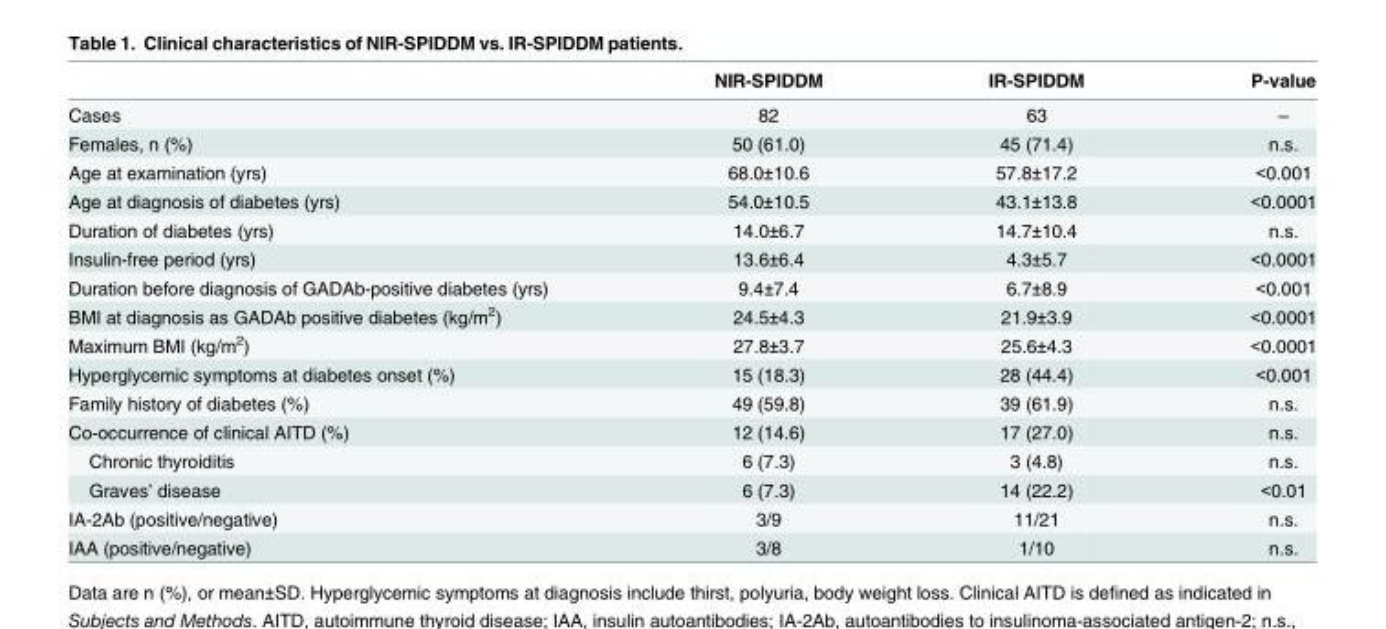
<table><thead><tr><td></td><td>NIR-SPIDDM</td><td>IR-SPIDDM</td><td>P-value</td></tr></thead><tbody><tr><td>Cases</td><td>82</td><td>63</td><td>–</td></tr><tr><td>Females, n (%)</td><td>50 (61.0)</td><td>45 (71.4)</td><td>n.s.</td></tr><tr><td>Age at examination (yrs)</td><td>68.0±10.6</td><td>57.8±17.2</td><td>&lt;0.001</td></tr><tr><td>Age at diagnosis of diabetes (yrs)</td><td>54.0±10.5</td><td>43.1±13.8</td><td>&lt;0.0001</td></tr><tr><td>Duration of diabetes (yrs)</td><td>14.0±6.7</td><td>14.7±10.4</td><td>n.s.</td></tr><tr><td>Insulin-free period (yrs)</td><td>13.6±6.4</td><td>4.3±5.7</td><td>&lt;0.0001</td></tr><tr><td>Duration before diagnosis of GADAb-positive diabetes (yrs)</td><td>9.4±7.4</td><td>6.7±8.9</td><td>&lt;0.001</td></tr><tr><td>BMI at diagnosis as GADAb positive diabetes (kg/m<sup>2</sup>)</td><td>24.5±4.3</td><td>21.9±3.9</td><td>&lt;0.0001</td></tr><tr><td>Maximum BMI (kg/m<sup>2</sup>)</td><td>27.8±3.7</td><td>25.6±4.3</td><td>&lt;0.0001</td></tr><tr><td>Hyperglycemic symptoms at diabetes onset (%)</td><td>15 (18.3)</td><td>28 (44.4)</td><td>&lt;0.001</td></tr><tr><td>Family history of diabetes (%)</td><td>49 (59.8)</td><td>39 (61.9)</td><td>n.s.</td></tr><tr><td>Co-occurrence of clinical AITD (%)</td><td>12 (14.6)</td><td>17 (27.0)</td><td>n.s.</td></tr><tr><td>Chronic thyroiditis</td><td>6 (7.3)</td><td>3 (4.8)</td><td>n.s.</td></tr><tr><td>Graves’ disease</td><td>6 (7.3)</td><td>14 (22.2)</td><td>&lt;0.01</td></tr><tr><td>IA-2Ab (positive/negative)</td><td>3/9</td><td>11/21</td><td>n.s.</td></tr><tr><td>IAA (positive/negative)</td><td>3/8</td><td>1/10</td><td>n.s.</td></tr></tbody></table>